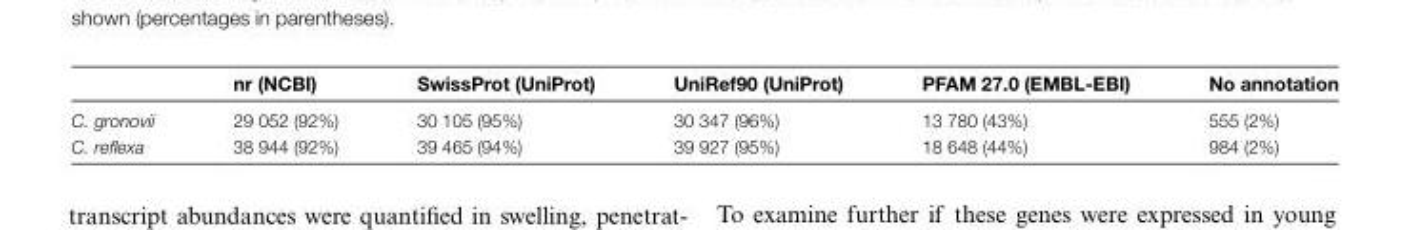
<table><thead><tr><td></td><td>nr (NCBI)</td><td>SwissProt (UniProt)</td><td>UniRef90 (UniProt)</td><td>PFAM 27.0 (EMBL-EBI)</td><td>No annotation</td></tr></thead><tbody><tr><td>C. gronovii</td><td>29 052 (92%)</td><td>30 105 (95%)</td><td>30 347 (96%)</td><td>13 780 (43%)</td><td>555 (2%)</td></tr><tr><td>C. reflexa</td><td>38 944 (92%)</td><td>39 465 (94%)</td><td>39 927 (95%)</td><td>18 648 (44%)</td><td>984 (2%)</td></tr></tbody></table>